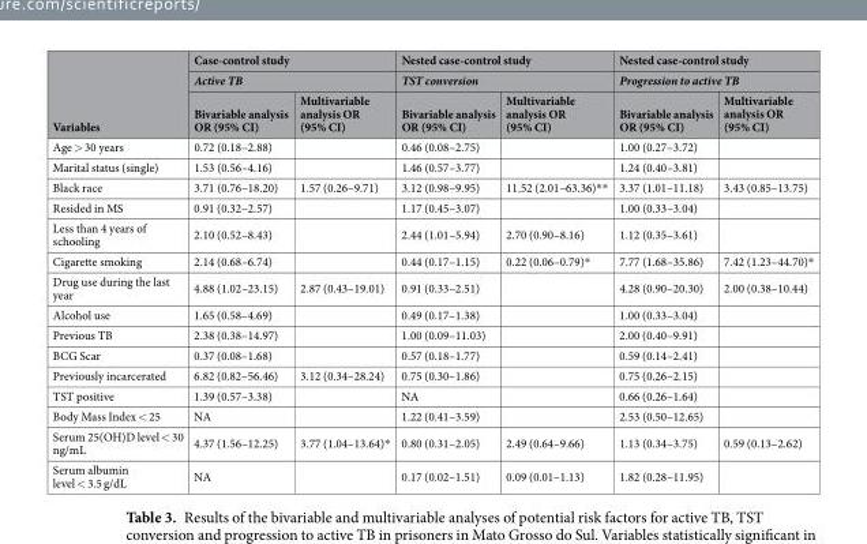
<table><thead><tr><td rowspan="3">Variables</td><td rowspan="2" colspan="2">Case-control study Active TB</td><td rowspan="2" colspan="2">Nested case-control study TST conversion</td><td rowspan="2" colspan="2">Nested case-control study Progression to active TB</td></tr><tr></tr><tr><td>Bivariable analysis OR (95% CI)</td><td>Multivariable analysis OR (95% CI)</td><td>Bivariable analysis OR (95% CI)</td><td>Multivariable analysis OR (95% CI)</td><td>Bivariable analysis OR (95% CI)</td><td>Multivariable analysis OR (95% CI)</td></tr></thead><tbody><tr><td>Age &gt; 30 years</td><td>0.72 (0.18–2.88)</td><td></td><td>0.46 (0.08–2.75)</td><td></td><td>1.00 (0.27–3.72)</td><td></td></tr><tr><td>Marital status (single)</td><td>1.53 (0.56–4.16)</td><td></td><td>1.46 (0.57–3.77)</td><td></td><td>1.24 (0.40–3.81)</td><td></td></tr><tr><td>Black race</td><td>3.71 (0.76–18.20)</td><td>1.57 (0.26–9.71)</td><td>3.12 (0.98–9.95)</td><td>11.52 (2.01–63.36)**</td><td>3.37 (1.01–11.18)</td><td>3.43 (0.85–13.75)</td></tr><tr><td>Resided in MS</td><td>0.91 (0.32–2.57)</td><td></td><td>1.17 (0.45–3.07)</td><td></td><td>1.00 (0.33–3.04)</td><td></td></tr><tr><td>Less than 4 years of schooling</td><td>2.10 (0.52–8.43)</td><td></td><td>2.44 (1.01–5.94)</td><td>2.70 (0.90–8.16)</td><td>1.12 (0.35–3.61)</td><td></td></tr><tr><td>Cigarette smoking</td><td>2.14 (0.68–6.74)</td><td></td><td>0.44 (0.17–1.15)</td><td>0.22 (0.06–0.79)*</td><td>7.77 (1.68–35.86)</td><td>7.42 (1.23–44.70)*</td></tr><tr><td>Drug use during the last year</td><td>4.88 (1.02–23.15)</td><td>2.87 (0.43–19.01)</td><td>0.91 (0.33–2.51)</td><td></td><td>4.28 (0.90–20.30)</td><td>2.00 (0.38–10.44)</td></tr><tr><td>Alcohol use</td><td>1.65 (0.58–4.69)</td><td></td><td>0.49 (0.17–1.38)</td><td></td><td>1.00 (0.33–3.04)</td><td></td></tr><tr><td>Previous TB</td><td>2.38 (0.38–14.97)</td><td></td><td>1.00 (0.09–11.03)</td><td></td><td>2.00 (0.40–9.91)</td><td></td></tr><tr><td>BCG Scar</td><td>0.37 (0.08–1.68)</td><td></td><td>0.57 (0.18–1.77)</td><td></td><td>0.59 (0.14–2.41)</td><td></td></tr><tr><td>Previously incarcerated</td><td>6.82 (0.82–56.46)</td><td>3.12 (0.34–28.24)</td><td>0.75 (0.30–1.86)</td><td></td><td>0.75 (0.26–2.15)</td><td></td></tr><tr><td>TST positive</td><td>1.39 (0.57–3.38)</td><td></td><td>NA</td><td></td><td>0.66 (0.26–1.64)</td><td></td></tr><tr><td>Body Mass Index &lt; 25</td><td>NA</td><td></td><td>1.22 (0.41–3.59)</td><td></td><td>2.53 (0.50–12.65)</td><td></td></tr><tr><td>Serum 25(OH)D level &lt; 30 ng/mL</td><td>4.37 (1.56–12.25)</td><td>3.77 (1.04–13.64)*</td><td>0.80 (0.31–2.05)</td><td>2.49 (0.64–9.66)</td><td>1.13 (0.34–3.75)</td><td>0.59 (0.13–2.62)</td></tr><tr><td>Serum albumin level &lt; 3.5 g/dL</td><td>NA</td><td></td><td>0.17 (0.02–1.51)</td><td>0.09 (0.01–1.13)</td><td>1.82 (0.28–11.95)</td><td></td></tr></tbody></table>